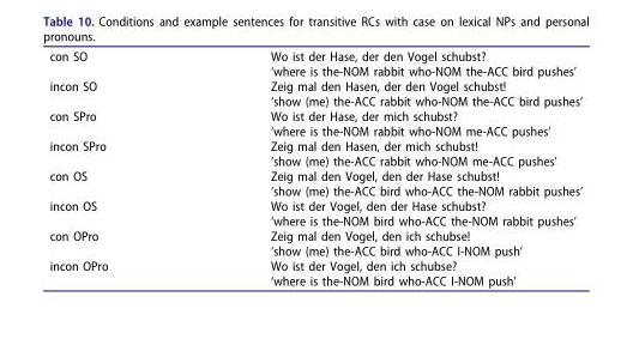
<table><tbody><tr><td>con SO</td><td>Wo ist der Hase, der den Vogel schubst? ‘where is the-NOM rabbit who-NOM the-ACC bird pushes’</td></tr><tr><td>incon SO</td><td>Zeig mal den Hasen, der den Vogel schubst! ‘show (me) the-ACC rabbit who-NOM the-ACC bird pushes’</td></tr><tr><td>con SPro</td><td>Wo ist der Hase, der mich schubst? ‘where is the-NOM rabbit who-NOM me-ACC pushes’</td></tr><tr><td>incon SPro</td><td>Zeig mal den Hasen, der mich schubst! ‘show (me) the-ACC rabbit who-NOM me-ACC pushes’</td></tr><tr><td>con OS</td><td>Zeig mal den Vogel, den der Hase schubst! ‘show (me) the-ACC bird who-ACC the-NOM rabbit pushes’</td></tr><tr><td>incon OS</td><td>Wo ist der Vogel, den der Hase schubst? ‘where is the-NOM bird who-ACC the-NOM rabbit pushes’</td></tr><tr><td>con OPro</td><td>Zeig mal den Vogel, den ich schubse! ‘show (me) the-ACC bird who-ACC I-NOM push’</td></tr><tr><td>incon OPro</td><td>Wo ist der Vogel, den ich schubse? ‘where is the-NOM bird who-ACC I-NOM push’</td></tr></tbody></table>